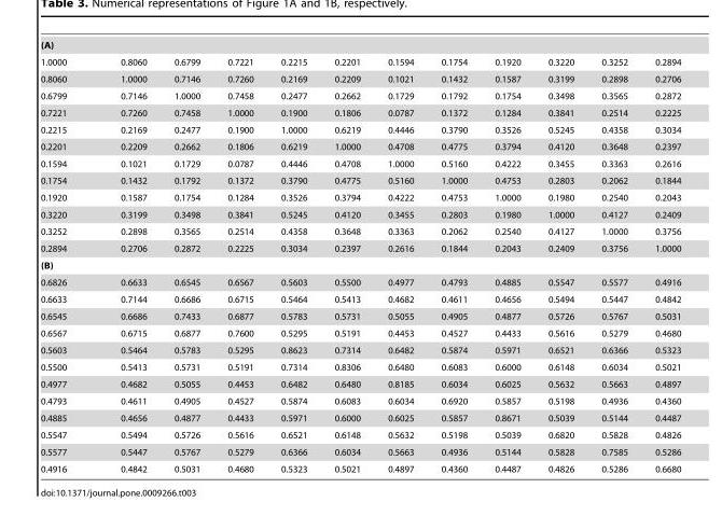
<table><tbody><tr><td colspan="12">(A)</td></tr><tr><td>1.0000</td><td>0.8060</td><td>0.6799</td><td>0.7221</td><td>0.2215</td><td>0.2201</td><td>0.1594</td><td>0.1754</td><td>0.1920</td><td>0.3220</td><td>0.3252</td><td>0.2894</td></tr><tr><td>0.8060</td><td>1.0000</td><td>0.7146</td><td>0.7260</td><td>0.2169</td><td>0.2209</td><td>0.1021</td><td>0.1432</td><td>0.1587</td><td>0.3199</td><td>0.2898</td><td>0.2706</td></tr><tr><td>0.6799</td><td>0.7146</td><td>1.0000</td><td>0.7458</td><td>0.2477</td><td>0.2662</td><td>0.1729</td><td>0.1792</td><td>0.1754</td><td>0.3498</td><td>0.3565</td><td>0.2872</td></tr><tr><td>0.7221</td><td>0.7260</td><td>0.7458</td><td>1.0000</td><td>0.1900</td><td>0.1806</td><td>0.0787</td><td>0.1372</td><td>0.1284</td><td>0.3841</td><td>0.2514</td><td>0.2225</td></tr><tr><td>0.2215</td><td>0.2169</td><td>0.2477</td><td>0.1900</td><td>1.0000</td><td>0.6219</td><td>0.4446</td><td>0.3790</td><td>0.3526</td><td>0.5245</td><td>0.4358</td><td>0.3034</td></tr><tr><td>0.2201</td><td>0.2209</td><td>0.2662</td><td>0.1806</td><td>0.6219</td><td>1.0000</td><td>0.4708</td><td>0.4775</td><td>0.3794</td><td>0.4120</td><td>0.3648</td><td>0.2397</td></tr><tr><td>0.1594</td><td>0.1021</td><td>0.1729</td><td>0.0787</td><td>0.4446</td><td>0.4708</td><td>1.0000</td><td>0.5160</td><td>0.4222</td><td>0.3455</td><td>0.3363</td><td>0.2616</td></tr><tr><td>0.1754</td><td>0.1432</td><td>0.1792</td><td>0.1372</td><td>0.3790</td><td>0.4775</td><td>0.5160</td><td>1.0000</td><td>0.4753</td><td>0.2803</td><td>0.2062</td><td>0.1844</td></tr><tr><td>0.1920</td><td>0.1587</td><td>0.1754</td><td>0.1284</td><td>0.3526</td><td>0.3794</td><td>0.4222</td><td>0.4753</td><td>1.0000</td><td>0.1980</td><td>0.2540</td><td>0.2043</td></tr><tr><td>0.3220</td><td>0.3199</td><td>0.3498</td><td>0.3841</td><td>0.5245</td><td>0.4120</td><td>0.3455</td><td>0.2803</td><td>0.1980</td><td>1.0000</td><td>0.4127</td><td>0.2409</td></tr><tr><td>0.3252</td><td>0.2898</td><td>0.3565</td><td>0.2514</td><td>0.4358</td><td>0.3648</td><td>0.3363</td><td>0.2062</td><td>0.2540</td><td>0.4127</td><td>1.0000</td><td>0.3756</td></tr><tr><td>0.2894</td><td>0.2706</td><td>0.2872</td><td>0.2225</td><td>0.3034</td><td>0.2397</td><td>0.2616</td><td>0.1844</td><td>0.2043</td><td>0.2409</td><td>0.3756</td><td>1.0000</td></tr><tr><td colspan="12">(B)</td></tr><tr><td>0.6826</td><td>0.6633</td><td>0.6545</td><td>0.6567</td><td>0.5603</td><td>0.5500</td><td>0.4977</td><td>0.4793</td><td>0.4885</td><td>0.5547</td><td>0.5577</td><td>0.4916</td></tr><tr><td>0.6633</td><td>0.7144</td><td>0.6686</td><td>0.6715</td><td>0.5464</td><td>0.5413</td><td>0.4682</td><td>0.4611</td><td>0.4656</td><td>0.5494</td><td>0.5447</td><td>0.4842</td></tr><tr><td>0.6545</td><td>0.6686</td><td>0.7433</td><td>0.6877</td><td>0.5783</td><td>0.5731</td><td>0.5055</td><td>0.4905</td><td>0.4877</td><td>0.5726</td><td>0.5767</td><td>0.5031</td></tr><tr><td>0.6567</td><td>0.6715</td><td>0.6877</td><td>0.7600</td><td>0.5295</td><td>0.5191</td><td>0.4453</td><td>0.4527</td><td>0.4433</td><td>0.5616</td><td>0.5279</td><td>0.4680</td></tr><tr><td>0.5603</td><td>0.5464</td><td>0.5783</td><td>0.5295</td><td>0.8623</td><td>0.7314</td><td>0.6482</td><td>0.5874</td><td>0.5971</td><td>0.6521</td><td>0.6366</td><td>0.5323</td></tr><tr><td>0.5500</td><td>0.5413</td><td>0.5731</td><td>0.5191</td><td>0.7314</td><td>0.8306</td><td>0.6480</td><td>0.6083</td><td>0.6000</td><td>0.6148</td><td>0.6034</td><td>0.5021</td></tr><tr><td>0.4977</td><td>0.4682</td><td>0.5055</td><td>0.4453</td><td>0.6482</td><td>0.6480</td><td>0.8185</td><td>0.6034</td><td>0.6025</td><td>0.5632</td><td>0.5663</td><td>0.4897</td></tr><tr><td>0.4793</td><td>0.4611</td><td>0.4905</td><td>0.4527</td><td>0.5874</td><td>0.6083</td><td>0.6034</td><td>0.6920</td><td>0.5857</td><td>0.5198</td><td>0.4936</td><td>0.4360</td></tr><tr><td>0.4885</td><td>0.4656</td><td>0.4877</td><td>0.4433</td><td>0.5971</td><td>0.6000</td><td>0.6025</td><td>0.5857</td><td>0.8671</td><td>0.5039</td><td>0.5144</td><td>0.4487</td></tr><tr><td>0.5547</td><td>0.5494</td><td>0.5726</td><td>0.5616</td><td>0.6521</td><td>0.6148</td><td>0.5632</td><td>0.5198</td><td>0.5039</td><td>0.6820</td><td>0.5828</td><td>0.4826</td></tr><tr><td>0.5577</td><td>0.5447</td><td>0.5767</td><td>0.5279</td><td>0.6366</td><td>0.6034</td><td>0.5663</td><td>0.4936</td><td>0.5144</td><td>0.5828</td><td>0.7585</td><td>0.5286</td></tr><tr><td>0.4916</td><td>0.4842</td><td>0.5031</td><td>0.4680</td><td>0.5323</td><td>0.5021</td><td>0.4897</td><td>0.4360</td><td>0.4487</td><td>0.4826</td><td>0.5286</td><td>0.6680</td></tr></tbody></table>